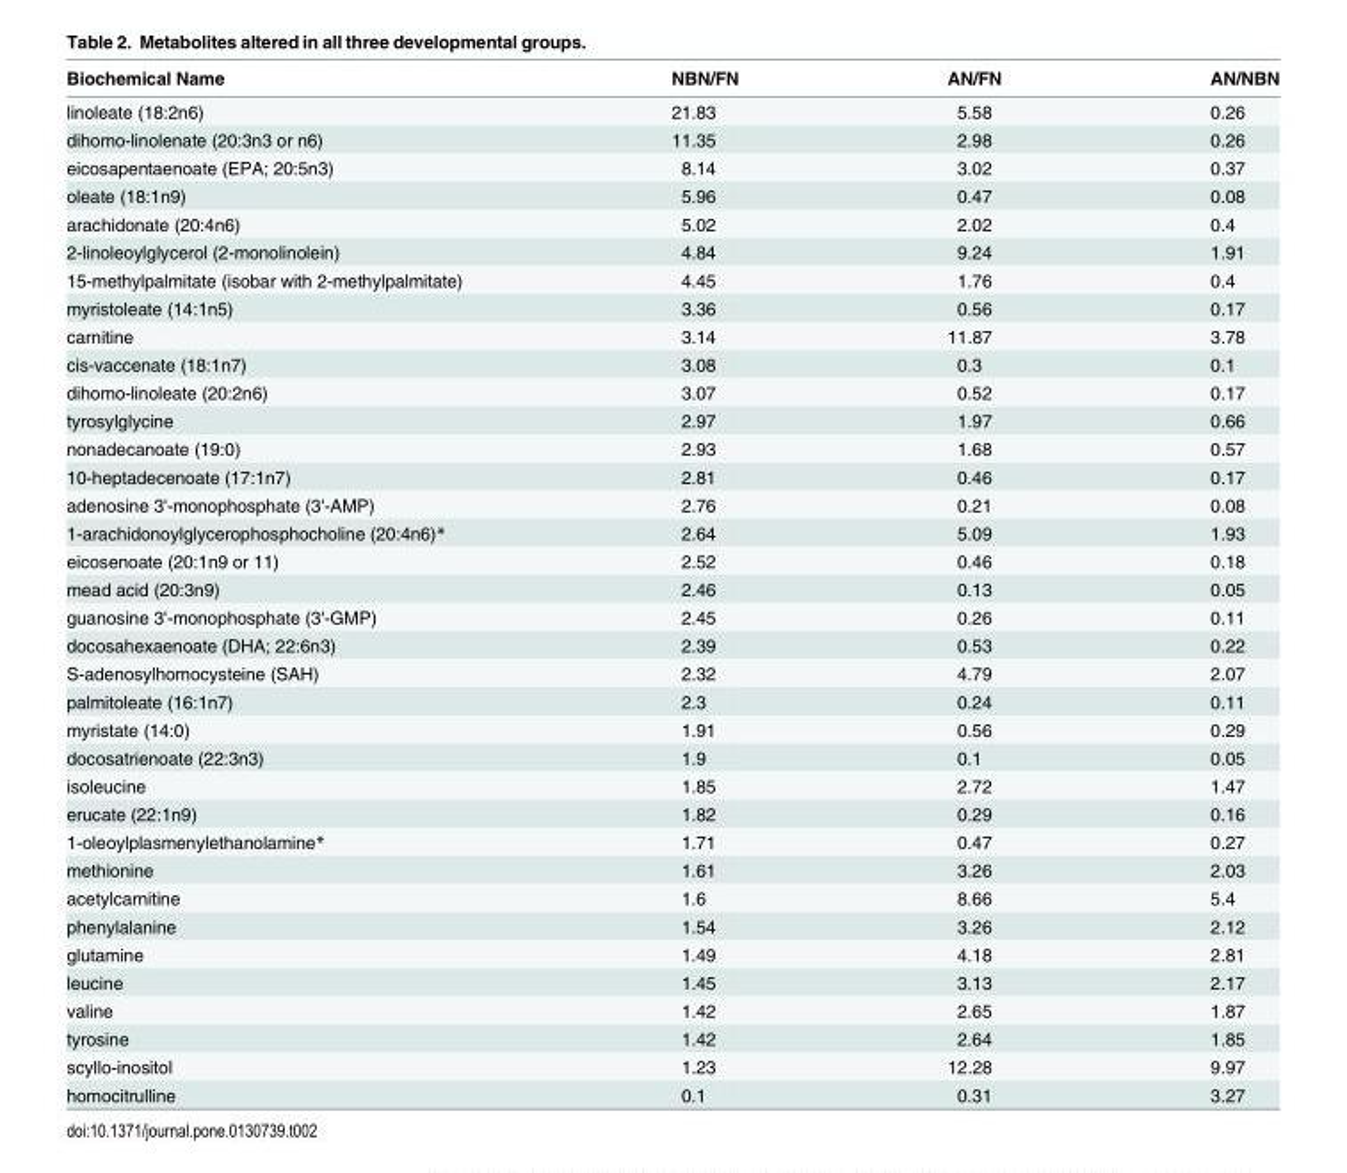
<table><thead><tr><td>Biochemical Name</td><td>NBN/FN</td><td>AN/FN</td><td>AN/NBN</td></tr></thead><tbody><tr><td>linoleate (18:2n6)</td><td>21.83</td><td>5.58</td><td>0.26</td></tr><tr><td>dihomo-linolenate (20:3n3 or n6)</td><td>11.35</td><td>2.98</td><td>0.26</td></tr><tr><td>eicosapentaenoate (EPA; 20:5n3)</td><td>8.14</td><td>3.02</td><td>0.37</td></tr><tr><td>oleate (18:1n9)</td><td>5.96</td><td>0.47</td><td>0.08</td></tr><tr><td>arachidonate (20:4n6)</td><td>5.02</td><td>2.02</td><td>0.4</td></tr><tr><td>2-linoleoylglycerol (2-monolinolein)</td><td>4.84</td><td>9.24</td><td>1.91</td></tr><tr><td>15-methylpalmitate (isobar with 2-methylpalmitate)</td><td>4.45</td><td>1.76</td><td>0.4</td></tr><tr><td>myristoleate (14:1n5)</td><td>3.36</td><td>0.56</td><td>0.17</td></tr><tr><td>carnitine</td><td>3.14</td><td>11.87</td><td>3.78</td></tr><tr><td>cis-vaccenate (18:1n7)</td><td>3.08</td><td>0.3</td><td>0.1</td></tr><tr><td>dihomo-linoleate (20:2n6)</td><td>3.07</td><td>0.52</td><td>0.17</td></tr><tr><td>tyrosylglycine</td><td>2.97</td><td>1.97</td><td>0.66</td></tr><tr><td>nonadecanoate (19:0)</td><td>2.93</td><td>1.68</td><td>0.57</td></tr><tr><td>10-heptadecenoate (17:1n7)</td><td>2.81</td><td>0.46</td><td>0.17</td></tr><tr><td>adenosine 3&#x27;-monophosphate (3&#x27;-AMP)</td><td>2.76</td><td>0.21</td><td>0.08</td></tr><tr><td>1-arachidonoylglycerophosphocholine (20:4n6)*</td><td>2.64</td><td>5.09</td><td>1.93</td></tr><tr><td>eicosenoate (20:1n9 or 11)</td><td>2.52</td><td>0.46</td><td>0.18</td></tr><tr><td>mead acid (20:3n9)</td><td>2.46</td><td>0.13</td><td>0.05</td></tr><tr><td>guanosine 3&#x27;-monophosphate (3&#x27;-GMP)</td><td>2.45</td><td>0.26</td><td>0.11</td></tr><tr><td>docosahexaenoate (DHA; 22:6n3)</td><td>2.39</td><td>0.53</td><td>0.22</td></tr><tr><td>S-adenosylhomocysteine (SAH)</td><td>2.32</td><td>4.79</td><td>2.07</td></tr><tr><td>palmitoleate (16:1n7)</td><td>2.3</td><td>0.24</td><td>0.11</td></tr><tr><td>myristate (14:0)</td><td>1.91</td><td>0.56</td><td>0.29</td></tr><tr><td>docosatrienoate (22:3n3)</td><td>1.9</td><td>0.1</td><td>0.05</td></tr><tr><td>isoleucine</td><td>1.85</td><td>2.72</td><td>1.47</td></tr><tr><td>erucate (22:1n9)</td><td>1.82</td><td>0.29</td><td>0.16</td></tr><tr><td>1-oleoylplasmenylethanolamine*</td><td>1.71</td><td>0.47</td><td>0.27</td></tr><tr><td>methionine</td><td>1.61</td><td>3.26</td><td>2.03</td></tr><tr><td>acetylcarnitine</td><td>1.6</td><td>8.66</td><td>5.4</td></tr><tr><td>phenylalanine</td><td>1.54</td><td>3.26</td><td>2.12</td></tr><tr><td>glutamine</td><td>1.49</td><td>4.18</td><td>2.81</td></tr><tr><td>leucine</td><td>1.45</td><td>3.13</td><td>2.17</td></tr><tr><td>valine</td><td>1.42</td><td>2.65</td><td>1.87</td></tr><tr><td>tyrosine</td><td>1.42</td><td>2.64</td><td>1.85</td></tr><tr><td>scyllo-inositol</td><td>1.23</td><td>12.28</td><td>9.97</td></tr><tr><td>homocitrulline</td><td>0.1</td><td>0.31</td><td>3.27</td></tr></tbody></table>